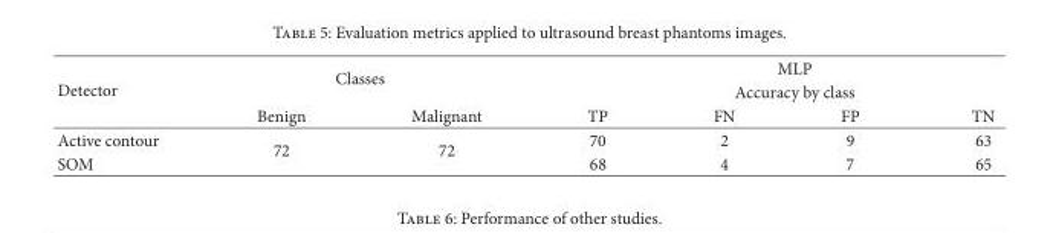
<table><thead><tr><td rowspan="3">Detector</td><td rowspan="2" colspan="2">Classes</td><td rowspan="2" colspan="4">MLP Accuracy by class</td></tr><tr></tr><tr><td>Benign</td><td>Malignant</td><td>TP</td><td>FN</td><td>FP</td><td>TN</td></tr></thead><tbody><tr><td>Active contour</td><td rowspan="2">72</td><td rowspan="2">72</td><td>70</td><td>2</td><td>9</td><td>63</td></tr><tr><td>SOM</td><td>68</td><td>4</td><td>7</td><td>65</td></tr></tbody></table>